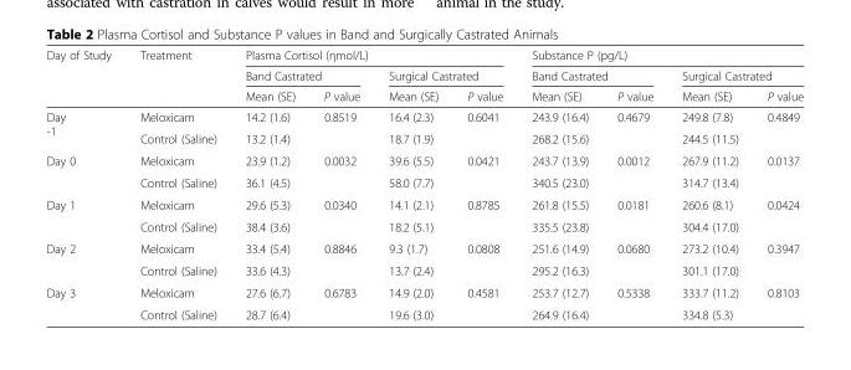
<table><thead><tr><td rowspan="3">Day of Study</td><td rowspan="3">Treatment</td><td colspan="4">Plasma Cortisol (ηmol/L)</td><td colspan="4">Substance P (pg/L)</td></tr><tr><td colspan="2">Band Castrated</td><td colspan="2">Surgical Castrated</td><td colspan="2">Band Castrated</td><td colspan="2">Surgical Castrated</td></tr><tr><td>Mean (SE)</td><td>P value</td><td>Mean (SE)</td><td>P value</td><td>Mean (SE)</td><td>P value</td><td>Mean (SE)</td><td>P value</td></tr></thead><tbody><tr><td rowspan="2">Day -1</td><td>Meloxicam</td><td>14.2 (1.6)</td><td rowspan="2">0.8519</td><td>16.4 (2.3)</td><td rowspan="2">0.6041</td><td>243.9 (16.4)</td><td rowspan="2">0.4679</td><td>249.8 (7.8)</td><td rowspan="2">0.4849</td></tr><tr><td>Control (Saline)</td><td>13.2 (1.4)</td><td>18.7 (1.9)</td><td>268.2 (15.6)</td><td>244.5 (11.5)</td></tr><tr><td rowspan="2">Day 0</td><td>Meloxicam</td><td>23.9 (1.2)</td><td rowspan="2">0.0032</td><td>39.6 (5.5)</td><td rowspan="2">0.0421</td><td>243.7 (13.9)</td><td rowspan="2">0.0012</td><td>267.9 (11.2)</td><td rowspan="2">0.0137</td></tr><tr><td>Control (Saline)</td><td>36.1 (4.5)</td><td>58.0 (7.7)</td><td>340.5 (23.0)</td><td>314.7 (13.4)</td></tr><tr><td rowspan="2">Day 1</td><td>Meloxicam</td><td>29.6 (5.3)</td><td rowspan="2">0.0340</td><td>14.1 (2.1)</td><td rowspan="2">0.8785</td><td>261.8 (15.5)</td><td rowspan="2">0.0181</td><td>260.6 (8.1)</td><td rowspan="2">0.0424</td></tr><tr><td>Control (Saline)</td><td>38.4 (3.6)</td><td>18.2 (5.1)</td><td>335.5 (23.8)</td><td>304.4 (17.0)</td></tr><tr><td rowspan="2">Day 2</td><td>Meloxicam</td><td>33.4 (5.4)</td><td rowspan="2">0.8846</td><td>9.3 (1.7)</td><td rowspan="2">0.0808</td><td>251.6 (14.9)</td><td rowspan="2">0.0680</td><td>273.2 (10.4)</td><td rowspan="2">0.3947</td></tr><tr><td>Control (Saline)</td><td>33.6 (4.3)</td><td>13.7 (2.4)</td><td>295.2 (16.3)</td><td>301.1 (17.0)</td></tr><tr><td rowspan="2">Day 3</td><td>Meloxicam</td><td>27.6 (6.7)</td><td rowspan="2">0.6783</td><td>14.9 (2.0)</td><td rowspan="2">0.4581</td><td>253.7 (12.7)</td><td rowspan="2">0.5338</td><td>333.7 (11.2)</td><td rowspan="2">0.8103</td></tr><tr><td>Control (Saline)</td><td>28.7 (6.4)</td><td>19.6 (3.0)</td><td>264.9 (16.4)</td><td>334.8 (5.3)</td></tr></tbody></table>